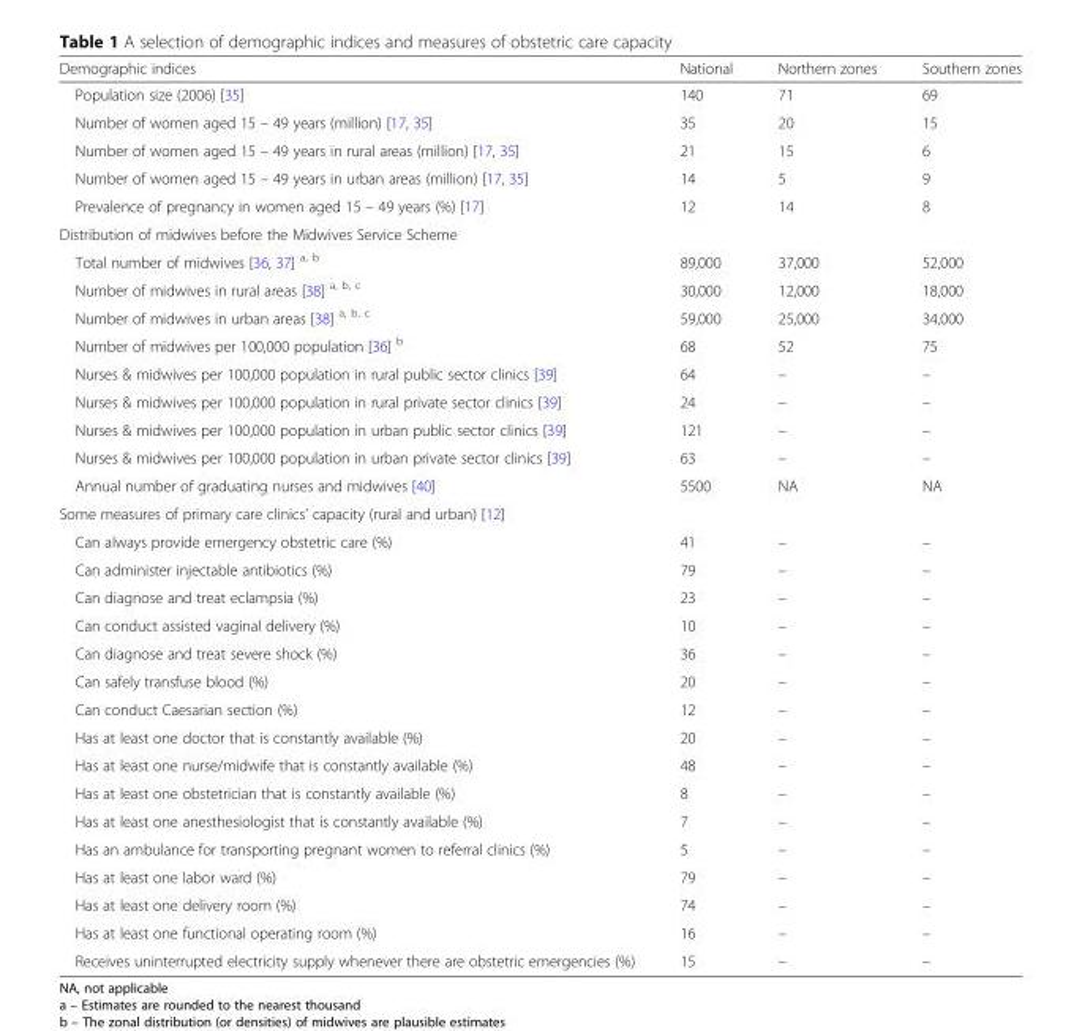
<table><thead><tr><td>Demographic indices</td><td>National</td><td>Northern zones</td><td>Southern zones</td></tr></thead><tbody><tr><td>Population size (2006) [35]</td><td>140</td><td>71</td><td>69</td></tr><tr><td>Number of women aged 15 – 49 years (million) [17, 35]</td><td>35</td><td>20</td><td>15</td></tr><tr><td>Number of women aged 15 – 49 years in rural areas (million) [17, 35]</td><td>21</td><td>15</td><td>6</td></tr><tr><td>Number of women aged 15 – 49 years in urban areas (million) [17, 35]</td><td>14</td><td>5</td><td>9</td></tr><tr><td>Prevalence of pregnancy in women aged 15 – 49 years (%) [17]</td><td>12</td><td>14</td><td>8</td></tr><tr><td colspan="4">Distribution of midwives before the Midwives Service Scheme</td></tr><tr><td>Total number of midwives [36, 37] <sup>a, b</sup></td><td>89,000</td><td>37,000</td><td>52,000</td></tr><tr><td>Number of midwives in rural areas [38] <sup>a, b, c</sup></td><td>30,000</td><td>12,000</td><td>18,000</td></tr><tr><td>Number of midwives in urban areas [38] <sup>a, b, c</sup></td><td>59,000</td><td>25,000</td><td>34,000</td></tr><tr><td>Number of midwives per 100,000 population [36] <sup>b</sup></td><td>68</td><td>52</td><td>75</td></tr><tr><td>Nurses &amp; midwives per 100,000 population in rural public sector clinics [39]</td><td>64</td><td>–</td><td>–</td></tr><tr><td>Nurses &amp; midwives per 100,000 population in rural private sector clinics [39]</td><td>24</td><td>–</td><td>–</td></tr><tr><td>Nurses &amp; midwives per 100,000 population in urban public sector clinics [39]</td><td>121</td><td>–</td><td>–</td></tr><tr><td>Nurses &amp; midwives per 100,000 population in urban private sector clinics [39]</td><td>63</td><td>–</td><td>–</td></tr><tr><td>Annual number of graduating nurses and midwives [40]</td><td>5500</td><td>NA</td><td>NA</td></tr><tr><td colspan="4">Some measures of primary care clinics’ capacity (rural and urban) [12]</td></tr><tr><td>Can always provide emergency obstetric care (%)</td><td>41</td><td>–</td><td>–</td></tr><tr><td>Can administer injectable antibiotics (%)</td><td>79</td><td>–</td><td>–</td></tr><tr><td>Can diagnose and treat eclampsia (%)</td><td>23</td><td>–</td><td>–</td></tr><tr><td>Can conduct assisted vaginal delivery (%)</td><td>10</td><td>–</td><td>–</td></tr><tr><td>Can diagnose and treat severe shock (%)</td><td>36</td><td>–</td><td>–</td></tr><tr><td>Can safely transfuse blood (%)</td><td>20</td><td>–</td><td>–</td></tr><tr><td>Can conduct Caesarian section (%)</td><td>12</td><td>–</td><td>–</td></tr><tr><td>Has at least one doctor that is constantly available (%)</td><td>20</td><td>–</td><td>–</td></tr><tr><td>Has at least one nurse/midwife that is constantly available (%)</td><td>48</td><td>–</td><td>–</td></tr><tr><td>Has at least one obstetrician that is constantly available (%)</td><td>8</td><td>–</td><td>–</td></tr><tr><td>Has at least one anesthesiologist that is constantly available (%)</td><td>7</td><td>–</td><td>–</td></tr><tr><td>Has an ambulance for transporting pregnant women to referral clinics (%)</td><td>5</td><td>–</td><td>–</td></tr><tr><td>Has at least one labor ward (%)</td><td>79</td><td>–</td><td>–</td></tr><tr><td>Has at least one delivery room (%)</td><td>74</td><td>–</td><td>–</td></tr><tr><td>Has at least one functional operating room (%)</td><td>16</td><td>–</td><td>–</td></tr><tr><td>Receives uninterrupted electricity supply whenever there are obstetric emergencies (%)</td><td>15</td><td>–</td><td>–</td></tr></tbody></table>